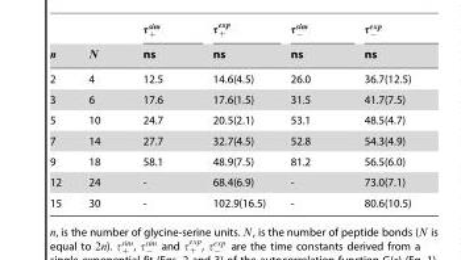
<table><thead><tr><td>n</td><td>N</td><td>ns</td><td>ns</td><td>ns</td><td>ns</td></tr></thead><tbody><tr><td>2</td><td>4</td><td>12.5</td><td>14.6(4.5)</td><td>26.0</td><td>36.7(12.5)</td></tr><tr><td>3</td><td>6</td><td>17.6</td><td>17.6(1.5)</td><td>31.5</td><td>41.7(7.5)</td></tr><tr><td>5</td><td>10</td><td>24.7</td><td>20.5(2.1)</td><td>53.1</td><td>48.5(4.7)</td></tr><tr><td>7</td><td>14</td><td>27.7</td><td>32.7(4.5)</td><td>52.8</td><td>54.3(4.9)</td></tr><tr><td>9</td><td>18</td><td>58.1</td><td>48.9(7.5)</td><td>81.2</td><td>56.5(6.0)</td></tr><tr><td>12</td><td>24</td><td>-</td><td>68.4(6.9)</td><td>-</td><td>73.0(7.1)</td></tr><tr><td>15</td><td>30</td><td>-</td><td>102.9(16.5)</td><td>-</td><td>80.6(10.5)</td></tr></tbody></table>